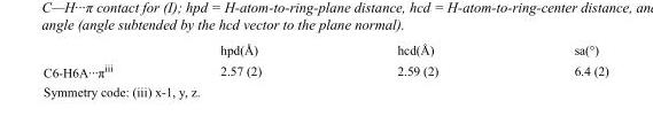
<table><thead><tr><td></td><td>hpd(Å)</td><td>hcd(Å)</td><td>sa(°)</td></tr></thead><tbody><tr><td>C6-H6A···π<sup>iii</sup></td><td>2.57 (2)</td><td>2.59 (2)</td><td>6.4 (2)</td></tr></tbody></table>